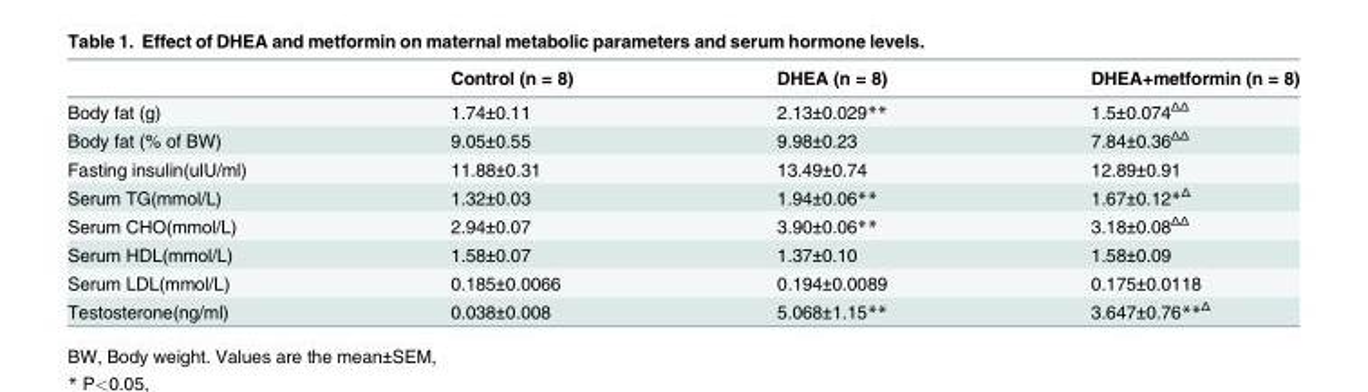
<table><thead><tr><td></td><td>Control (n = 8)</td><td>DHEA (n = 8)</td><td>DHEA+metformin (n = 8)</td></tr></thead><tbody><tr><td>Body fat (g)</td><td>1.74±0.11</td><td>2.13±0.029**</td><td>1.5±0.074<sup>ΔΔ</sup></td></tr><tr><td>Body fat (% of BW)</td><td>9.05±0.55</td><td>9.98±0.23</td><td>7.84±0.36<sup>ΔΔ</sup></td></tr><tr><td>Fasting insulin(uIU/ml)</td><td>11.88±0.31</td><td>13.49±0.74</td><td>12.89±0.91</td></tr><tr><td>Serum TG(mmol/L)</td><td>1.32±0.03</td><td>1.94±0.06**</td><td>1.67±0.12*<sup>Δ</sup></td></tr><tr><td>Serum CHO(mmol/L)</td><td>2.94±0.07</td><td>3.90±0.06**</td><td>3.18±0.08<sup>ΔΔ</sup></td></tr><tr><td>Serum HDL(mmol/L)</td><td>1.58±0.07</td><td>1.37±0.10</td><td>1.58±0.09</td></tr><tr><td>Serum LDL(mmol/L)</td><td>0.185±0.0066</td><td>0.194±0.0089</td><td>0.175±0.0118</td></tr><tr><td>Testosterone(ng/ml)</td><td>0.038±0.008</td><td>5.068±1.15**</td><td>3.647±0.76**<sup>Δ</sup></td></tr></tbody></table>